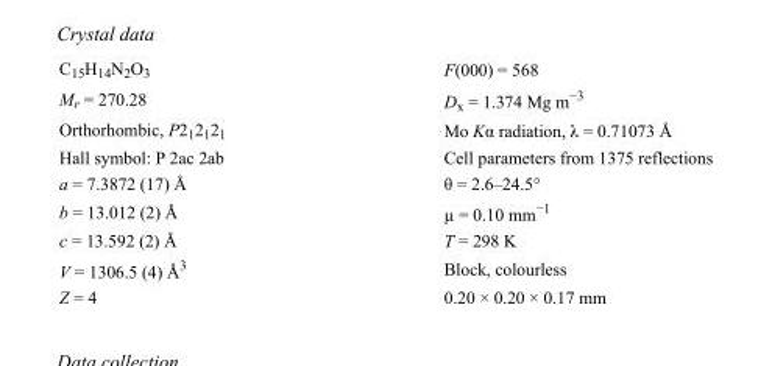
<table><tbody><tr><td>C<sub>15</sub>H<sub>14</sub>N<sub>2</sub>O<sub>3</sub></td><td>F(000) = 568</td></tr><tr><td>M<sub>r</sub> = 270.28</td><td>D<sub>x</sub> = 1.374 Mg m<sup>−3</sup></td></tr><tr><td>Orthorhombic, P2<sub>1</sub>2<sub>1</sub>2<sub>1</sub></td><td>Mo Kα radiation, λ = 0.71073 Å</td></tr><tr><td>Hall symbol: P 2ac 2ab</td><td>Cell parameters from 1375 reflections</td></tr><tr><td>a = 7.3872 (17) Å</td><td>θ = 2.6–24.5°</td></tr><tr><td>b = 13.012 (2) Å</td><td>µ = 0.10 mm<sup>−1</sup></td></tr><tr><td>c = 13.592 (2) Å</td><td>T = 298 K</td></tr><tr><td>V = 1306.5 (4) Å<sup>3</sup></td><td>Block, colourless</td></tr><tr><td>Z = 4</td><td>0.20 × 0.20 × 0.17 mm</td></tr></tbody></table>